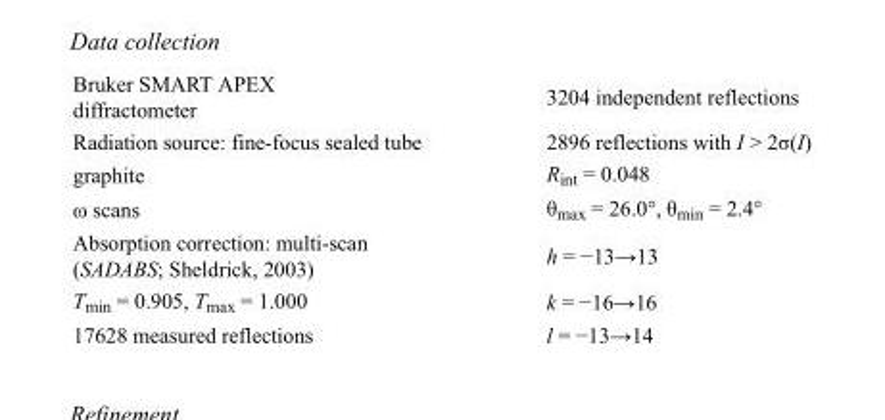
<table><tbody><tr><td>Bruker SMART APEX diffractometer</td><td>3204 independent reflections</td></tr><tr><td>Radiation source: fine-focus sealed tube</td><td>2896 reflections with I &gt; 2σ(I)</td></tr><tr><td>graphite</td><td>R<sub>int</sub> = 0.048</td></tr><tr><td>ω scans</td><td>θ<sub>max</sub> = 26.0°, θ<sub>min</sub> = 2.4°</td></tr><tr><td>Absorption correction: multi-scan (SADABS; Sheldrick, 2003)</td><td>h = −13→13</td></tr><tr><td>T<sub>min</sub> = 0.905, T<sub>max</sub> = 1.000</td><td>k = −16→16</td></tr><tr><td>17628 measured reflections</td><td>l = −13→14</td></tr></tbody></table>